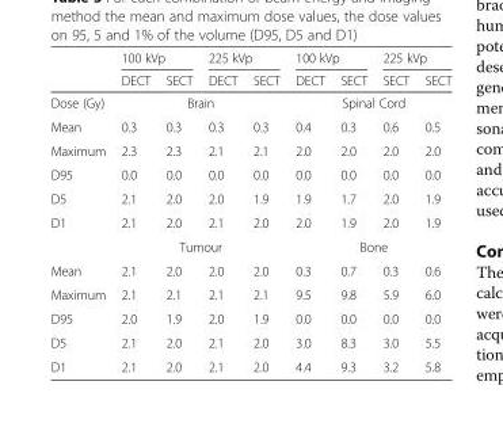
<table><thead><tr><td rowspan="2"></td><td colspan="2">100 kVp</td><td colspan="2">225 kVp</td><td colspan="2">100 kVp</td><td colspan="2">225 kVp</td></tr><tr><td>DECT</td><td>SECT</td><td>DECT</td><td>SECT</td><td>DECT</td><td>SECT</td><td>SECT</td><td>SECT</td></tr></thead><tbody><tr><td>Dose (Gy)</td><td colspan="4">Brain</td><td colspan="4">Spinal Cord</td></tr><tr><td>Mean</td><td>0.3</td><td>0.3</td><td>0.3</td><td>0.3</td><td>0.4</td><td>0.3</td><td>0.6</td><td>0.5</td></tr><tr><td>Maximum</td><td>2.3</td><td>2.3</td><td>2.1</td><td>2.1</td><td>2.0</td><td>2.0</td><td>2.0</td><td>2.0</td></tr><tr><td>D95</td><td>0.0</td><td>0.0</td><td>0.0</td><td>0.0</td><td>0.0</td><td>0.0</td><td>0.0</td><td>0.0</td></tr><tr><td>D5</td><td>2.1</td><td>2.0</td><td>2.0</td><td>1.9</td><td>1.9</td><td>1.7</td><td>2.0</td><td>1.9</td></tr><tr><td rowspan="2">D1</td><td>2.1</td><td>2.0</td><td>2.1</td><td>2.0</td><td>2.0</td><td>1.9</td><td>2.0</td><td>1.9</td></tr><tr><td colspan="4">Tumour</td><td colspan="4">Bone</td></tr><tr><td>Mean</td><td>2.1</td><td>2.0</td><td>2.0</td><td>2.0</td><td>0.3</td><td>0.7</td><td>0.3</td><td>0.6</td></tr><tr><td>Maximum</td><td>2.1</td><td>2.1</td><td>2.1</td><td>2.1</td><td>9.5</td><td>9.8</td><td>5.9</td><td>6.0</td></tr><tr><td>D95</td><td>2.0</td><td>1.9</td><td>2.0</td><td>1.9</td><td>0.0</td><td>0.0</td><td>0.0</td><td>0.0</td></tr><tr><td>D5</td><td>2.1</td><td>2.0</td><td>2.1</td><td>2.0</td><td>3.0</td><td>8.3</td><td>3.0</td><td>5.5</td></tr><tr><td>D1</td><td>2.1</td><td>2.0</td><td>2.1</td><td>2.0</td><td>4.4</td><td>9.3</td><td>3.2</td><td>5.8</td></tr></tbody></table>